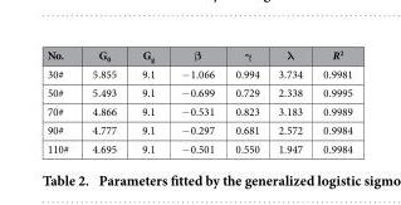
<table><thead><tr><td>No.</td><td>G<sub>0</sub></td><td>G<sub>g</sub></td><td>β</td><td>γ</td><td>λ</td><td>R<sup>2</sup></td></tr></thead><tbody><tr><td>30#</td><td>5.855</td><td>9.1</td><td>− 1.066</td><td>0.994</td><td>3.734</td><td>0.9981</td></tr><tr><td>50#</td><td>5.493</td><td>9.1</td><td>− 0.699</td><td>0.729</td><td>2.338</td><td>0.9995</td></tr><tr><td>70#</td><td>4.866</td><td>9.1</td><td>− 0.531</td><td>0.823</td><td>3.183</td><td>0.9989</td></tr><tr><td>90#</td><td>4.777</td><td>9.1</td><td>− 0.297</td><td>0.681</td><td>2.572</td><td>0.9984</td></tr><tr><td>110#</td><td>4.695</td><td>9.1</td><td>− 0.501</td><td>0.550</td><td>1.947</td><td>0.9984</td></tr></tbody></table>